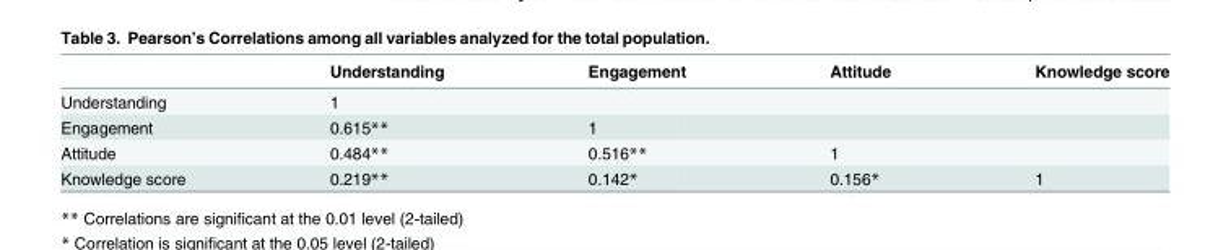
<table><thead><tr><td></td><td>Understanding</td><td>Engagement</td><td>Attitude</td><td>Knowledge score</td></tr></thead><tbody><tr><td>Understanding</td><td>1</td><td></td><td></td><td></td></tr><tr><td>Engagement</td><td>0.615**</td><td>1</td><td></td><td></td></tr><tr><td>Attitude</td><td>0.484**</td><td>0.516**</td><td>1</td><td></td></tr><tr><td>Knowledge score</td><td>0.219**</td><td>0.142*</td><td>0.156*</td><td>1</td></tr></tbody></table>